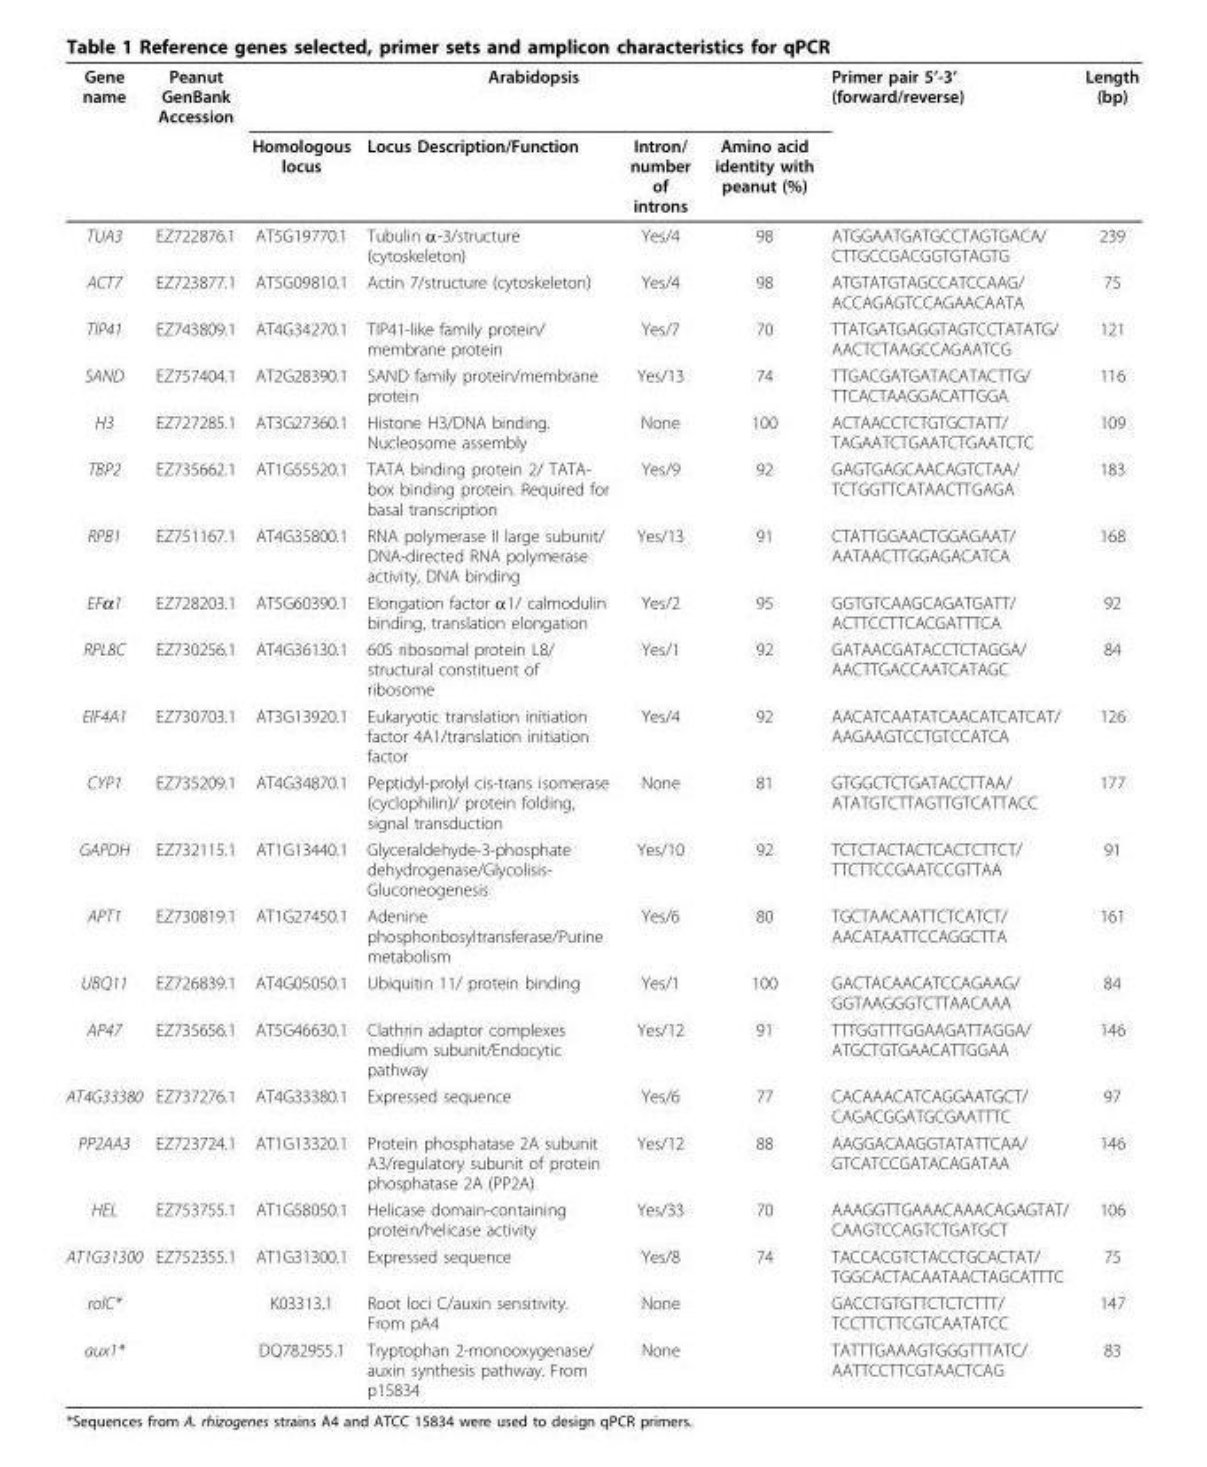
<table><thead><tr><td rowspan="2">Gene name</td><td rowspan="2">Peanut GenBank Accession</td><td colspan="4">Arabidopsis</td><td rowspan="2">Primer pair 5’-3’ (forward/reverse)</td><td rowspan="2">Length (bp)</td></tr><tr><td>Homologous locus</td><td>Locus Description/Function</td><td>Intron/ number of introns</td><td>Amino acid identity with peanut (%)</td></tr></thead><tbody><tr><td>TUA3</td><td>EZ722876.1</td><td>AT5G19770.1</td><td>Tubulin α-3/structure (cytoskeleton)</td><td>Yes/4</td><td>98</td><td>ATGGAATGATGCCTAGTGACA/ CTTGCCGACGGTGTAGTG</td><td>239</td></tr><tr><td>ACT7</td><td>EZ723877.1</td><td>AT5G09810.1</td><td>Actin 7/structure (cytoskeleton)</td><td>Yes/4</td><td>98</td><td>ATGTATGTAGCCATCCAAG/ ACCAGAGTCCAGAACAATA</td><td>75</td></tr><tr><td>TIP41</td><td>EZ743809.1</td><td>AT4G34270.1</td><td>TIP41-like family protein/ membrane protein</td><td>Yes/7</td><td>70</td><td>TTATGATGAGGTAGTCCTATATG/ AACTCTAAGCCAGAATCG</td><td>121</td></tr><tr><td>SAND</td><td>EZ757404.1</td><td>AT2G28390.1</td><td>SAND family protein/membrane protein</td><td>Yes/13</td><td>74</td><td>TTGACGATGATACATACTTG/ TTCACTAAGGACATTGGA</td><td>116</td></tr><tr><td>H3</td><td>EZ727285.1</td><td>AT3G27360.1</td><td>Histone H3/DNA binding. Nucleosome assembly</td><td>None</td><td>100</td><td>ACTAACCTCTGTGCTATT/ TAGAATCTGAATCTGAATCTC</td><td>109</td></tr><tr><td>TBP2</td><td>EZ735662.1</td><td>AT1G55520.1</td><td>TATA binding protein 2/ TATA- box binding protein. Required for basal transcription</td><td>Yes/9</td><td>92</td><td>GAGTGAGCAACAGTCTAA/ TCTGGTTCATAACTTGAGA</td><td>183</td></tr><tr><td>RPB1</td><td>EZ751167.1</td><td>AT4G35800.1</td><td>RNA polymerase II large subunit/ DNA-directed RNA polymerase activity, DNA binding</td><td>Yes/13</td><td>91</td><td>CTATTGGAACTGGAGAAT/ AATAACTTGGAGACATCA</td><td>168</td></tr><tr><td>EFα1</td><td>EZ728203.1</td><td>AT5G60390.1</td><td>Elongation factor α1/ calmodulin binding, translation elongation</td><td>Yes/2</td><td>95</td><td>GGTGTCAAGCAGATGATT/ ACTTCCTTCACGATTTCA</td><td>92</td></tr><tr><td>RPL8C</td><td>EZ730256.1</td><td>AT4G36130.1</td><td>60S ribosomal protein L8/ structural constituent of ribosome</td><td>Yes/1</td><td>92</td><td>GATAACGATACCTCTAGGA/ AACTTGACCAATCATAGC</td><td>84</td></tr><tr><td>EIF4A1</td><td>EZ730703.1</td><td>AT3G13920.1</td><td>Eukaryotic translation initiation factor 4A1/translation initiation factor</td><td>Yes/4</td><td>92</td><td>AACATCAATATCAACATCATCAT/ AAGAAGTCCTGTCCATCA</td><td>126</td></tr><tr><td>CYP1</td><td>EZ735209.1</td><td>AT4G34870.1</td><td>Peptidyl-prolyl cis-trans isomerase (cyclophilin)/ protein folding, signal transduction</td><td>None</td><td>81</td><td>GTGGCTCTGATACCTTAA/ ATATGTCTTAGTTGTCATTACC</td><td>177</td></tr><tr><td>GAPDH</td><td>EZ732115.1</td><td>AT1G13440.1</td><td>Glyceraldehyde-3-phosphate dehydrogenase/Glycolisis- Gluconeogenesis</td><td>Yes/10</td><td>92</td><td>TCTCTACTACTCACTCTTCT/ TTCTTCCGAATCCGTTAA</td><td>91</td></tr><tr><td>APT1</td><td>EZ730819.1</td><td>AT1G27450.1</td><td>Adenine phosphoribosyltransferase/Purine metabolism</td><td>Yes/6</td><td>80</td><td>TGCTAACAATTCTCATCT/ AACATAATTCCAGGCTTA</td><td>161</td></tr><tr><td>UBQ11</td><td>EZ726839.1</td><td>AT4G05050.1</td><td>Ubiquitin 11/ protein binding</td><td>Yes/1</td><td>100</td><td>GACTACAACATCCAGAAG/ GGTAAGGGTCTTAACAAA</td><td>84</td></tr><tr><td>AP47</td><td>EZ735656.1</td><td>AT5G46630.1</td><td>Clathrin adaptor complexes medium subunit/Endocytic pathway</td><td>Yes/12</td><td>91</td><td>TTTGGTTTGGAAGATTAGGA/ ATGCTGTGAACATTGGAA</td><td>146</td></tr><tr><td>AT4G33380</td><td>EZ737276.1</td><td>AT4G33380.1</td><td>Expressed sequence</td><td>Yes/6</td><td>77</td><td>CACAAACATCAGGAATGCT/ CAGACGGATGCGAATTTC</td><td>97</td></tr><tr><td>PP2AA3</td><td>EZ723724.1</td><td>AT1G13320.1</td><td>Protein phosphatase 2A subunit A3/regulatory subunit of protein phosphatase 2A (PP2A)</td><td>Yes/12</td><td>88</td><td>AAGGACAAGGTATATTCAA/ GTCATCCGATACAGATAA</td><td>146</td></tr><tr><td>HEL</td><td>EZ753755.1</td><td>AT1G58050.1</td><td>Helicase domain-containing protein/helicase activity</td><td>Yes/33</td><td>70</td><td>AAAGGTTGAAACAAACAGAGTAT/ CAAGTCCAGTCTGATGCT</td><td>106</td></tr><tr><td>AT1G31300</td><td>EZ752355.1</td><td>AT1G31300.1</td><td>Expressed sequence</td><td>Yes/8</td><td>74</td><td>TACCACGTCTACCTGCACTAT/ TGGCACTACAATAACTAGCATTTC</td><td>75</td></tr><tr><td>rolC*</td><td></td><td>K03313.1</td><td>Root loci C/auxin sensitivity. From pA4</td><td>None</td><td></td><td>GACCTGTGTTCTCTCTTT/ TCCTTCTTCGTCAATATCC</td><td>147</td></tr><tr><td>aux1*</td><td></td><td>DQ782955.1</td><td>Tryptophan 2-monooxygenase/ auxin synthesis pathway. From p15834</td><td>None</td><td></td><td>TATTTGAAAGTGGGTTTATC/ AATTCCTTCGTAACTCAG</td><td>83</td></tr></tbody></table>